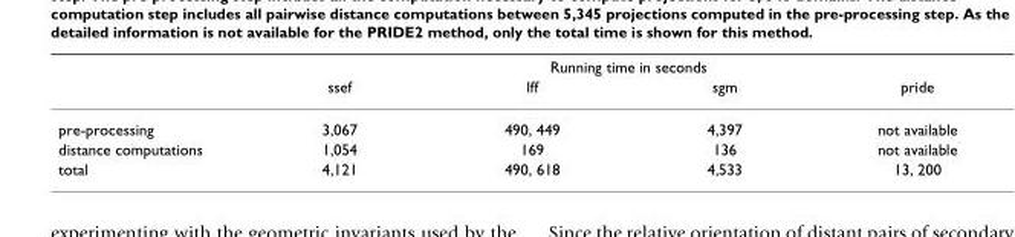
<table><thead><tr><td rowspan="2"></td><td colspan="4">Running time in seconds</td></tr><tr><td>ssef</td><td>lff</td><td>sgm</td><td>pride</td></tr></thead><tbody><tr><td>pre-processing</td><td>3,067</td><td>490, 449</td><td>4,397</td><td>not available</td></tr><tr><td>distance computations</td><td>1,054</td><td>169</td><td>136</td><td>not available</td></tr><tr><td>total</td><td>4,121</td><td>490, 618</td><td>4,533</td><td>13, 200</td></tr></tbody></table>